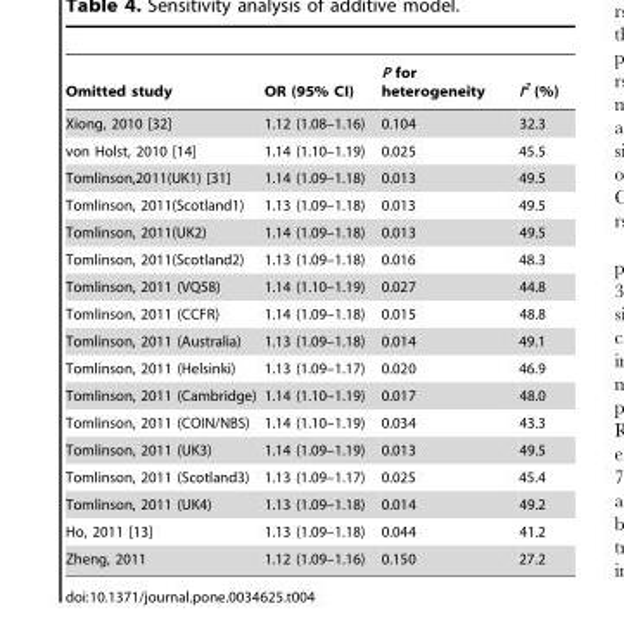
<table><thead><tr><td>Omitted study</td><td>OR (95% CI)</td><td>P for heterogeneity</td><td>I<sup>2</sup> (%)</td></tr></thead><tbody><tr><td>Xiong, 2010 [32]</td><td>1.12 (1.08–1.16)</td><td>0.104</td><td>32.3</td></tr><tr><td>von Holst, 2010 [14]</td><td>1.14 (1.10–1.19)</td><td>0.025</td><td>45.5</td></tr><tr><td>Tomlinson,2011(UK1) [31]</td><td>1.14 (1.09–1.18)</td><td>0.013</td><td>49.5</td></tr><tr><td>Tomlinson, 2011(Scotland1)</td><td>1.13 (1.09–1.18)</td><td>0.013</td><td>49.5</td></tr><tr><td>Tomlinson, 2011(UK2)</td><td>1.14 (1.09–1.18)</td><td>0.013</td><td>49.5</td></tr><tr><td>Tomlinson, 2011(Scotland2)</td><td>1.13 (1.09–1.18)</td><td>0.016</td><td>48.3</td></tr><tr><td>Tomlinson, 2011 (VQ58)</td><td>1.14 (1.10–1.19)</td><td>0.027</td><td>44.8</td></tr><tr><td>Tomlinson, 2011 (CCFR)</td><td>1.14 (1.09–1.18)</td><td>0.015</td><td>48.8</td></tr><tr><td>Tomlinson, 2011 (Australia)</td><td>1.13 (1.09–1.18)</td><td>0.014</td><td>49.1</td></tr><tr><td>Tomlinson, 2011 (Helsinki)</td><td>1.13 (1.09–1.17)</td><td>0.020</td><td>46.9</td></tr><tr><td>Tomlinson, 2011 (Cambridge)</td><td>1.14 (1.10–1.19)</td><td>0.017</td><td>48.0</td></tr><tr><td>Tomlinson, 2011 (COIN/NBS)</td><td>1.14 (1.10–1.19)</td><td>0.034</td><td>43.3</td></tr><tr><td>Tomlinson, 2011 (UK3)</td><td>1.14 (1.09–1.19)</td><td>0.013</td><td>49.5</td></tr><tr><td>Tomlinson, 2011 (Scotland3)</td><td>1.13 (1.09–1.17)</td><td>0.025</td><td>45.4</td></tr><tr><td>Tomlinson, 2011 (UK4)</td><td>1.13 (1.09–1.18)</td><td>0.014</td><td>49.2</td></tr><tr><td>Ho, 2011 [13]</td><td>1.13 (1.09–1.18)</td><td>0.044</td><td>41.2</td></tr><tr><td>Zheng, 2011</td><td>1.12 (1.09–1.16)</td><td>0.150</td><td>27.2</td></tr></tbody></table>